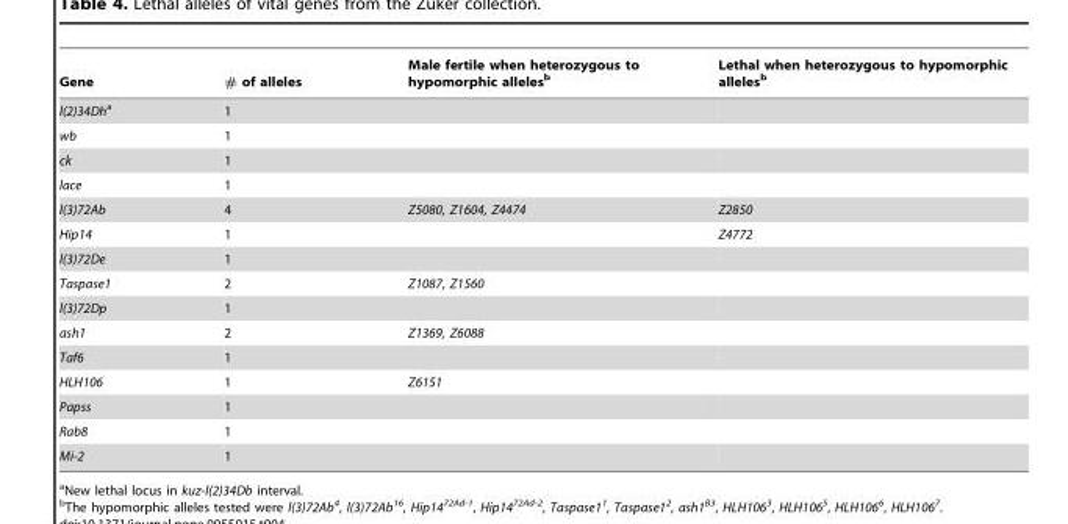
<table><thead><tr><td>Gene</td><td># of alleles</td><td>Male fertile when heterozygous to hypomorphic alleles<sup>b</sup></td><td>Lethal when heterozygous to hypomorphic alleles<sup>b</sup></td></tr></thead><tbody><tr><td>l(2)34Dha</td><td>1</td><td></td><td></td></tr><tr><td>wb</td><td>1</td><td></td><td></td></tr><tr><td>ck</td><td>1</td><td></td><td></td></tr><tr><td>lace</td><td>1</td><td></td><td></td></tr><tr><td>l(3)72Ab</td><td>4</td><td>Z5080, Z1604, Z4474</td><td>Z2850</td></tr><tr><td>Hip14</td><td>1</td><td></td><td>Z4772</td></tr><tr><td>l(3)72De</td><td>1</td><td></td><td></td></tr><tr><td>Taspase1</td><td>2</td><td>Z1087, Z1560</td><td></td></tr><tr><td>l(3)72Dp</td><td>1</td><td></td><td></td></tr><tr><td>ash1</td><td>2</td><td>Z1369, Z6088</td><td></td></tr><tr><td>Taf6</td><td>1</td><td></td><td></td></tr><tr><td>HLH106</td><td>1</td><td>Z6151</td><td></td></tr><tr><td>Papss</td><td>1</td><td></td><td></td></tr><tr><td>Rab8</td><td>1</td><td></td><td></td></tr><tr><td>Mi-2</td><td>1</td><td></td><td></td></tr></tbody></table>